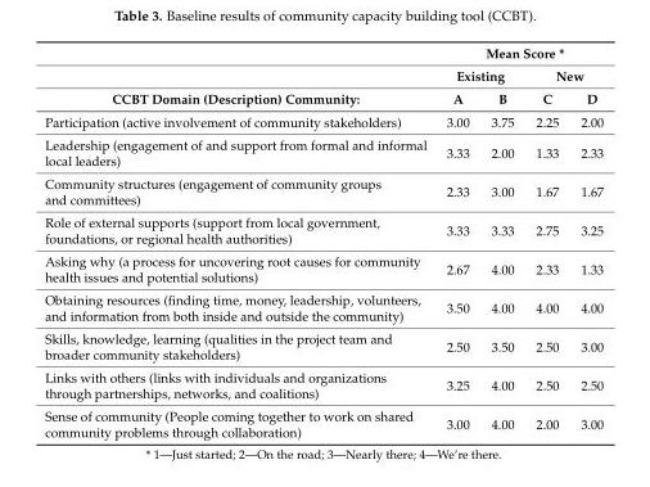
<table><thead><tr><td rowspan="3">CCBT Domain (Description) Community:</td><td colspan="4">Mean Score *</td></tr><tr><td colspan="2">Existing</td><td colspan="2">New</td></tr><tr><td>A</td><td>B</td><td>C</td><td>D</td></tr></thead><tbody><tr><td>Participation (active involvement of community stakeholders)</td><td>3.00</td><td>3.75</td><td>2.25</td><td>2.00</td></tr><tr><td>Leadership (engagement of and support from formal and informal local leaders)</td><td>3.33</td><td>2.00</td><td>1.33</td><td>2.33</td></tr><tr><td>Community structures (engagement of community groups and committees)</td><td>2.33</td><td>3.00</td><td>1.67</td><td>1.67</td></tr><tr><td>Role of external supports (support from local government, foundations, or regional health authorities)</td><td>3.33</td><td>3.33</td><td>2.75</td><td>3.25</td></tr><tr><td>Asking why (a process for uncovering root causes for community health issues and potential solutions)</td><td>2.67</td><td>4.00</td><td>2.33</td><td>1.33</td></tr><tr><td>Obtaining resources (finding time, money, leadership, volunteers, and information from both inside and outside the community)</td><td>3.50</td><td>4.00</td><td>4.00</td><td>4.00</td></tr><tr><td>Skills, knowledge, learning (qualities in the project team and broader community stakeholders)</td><td>2.50</td><td>3.50</td><td>2.50</td><td>3.00</td></tr><tr><td>Links with others (links with individuals and organizations through partnerships, networks, and coalitions)</td><td>3.25</td><td>4.00</td><td>2.50</td><td>2.50</td></tr><tr><td>Sense of community (People coming together to work on shared community problems through collaboration)</td><td>3.00</td><td>4.00</td><td>2.00</td><td>3.00</td></tr></tbody></table>